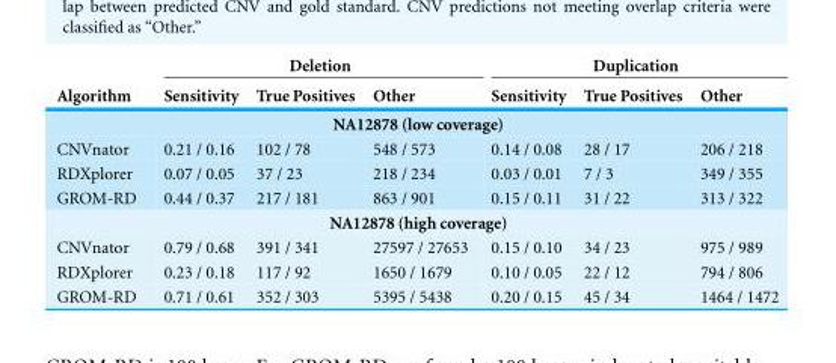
<table><thead><tr><td rowspan="2">Algorithm</td><td colspan="3">Deletion</td><td colspan="3">Duplication</td></tr><tr><td>Sensitivity</td><td>True Positives</td><td>Other</td><td>Sensitivity</td><td>True Positives</td><td>Other</td></tr></thead><tbody><tr><td colspan="7">NA12878 (low coverage)</td></tr><tr><td>CNVnator</td><td>0.21 / 0.16</td><td>102 / 78</td><td>548 / 573</td><td>0.14 / 0.08</td><td>28 / 17</td><td>206 / 218</td></tr><tr><td>RDXplorer</td><td>0.07 / 0.05</td><td>37 / 23</td><td>218 / 234</td><td>0.03 / 0.01</td><td>7 / 3</td><td>349 / 355</td></tr><tr><td>GROM-RD</td><td>0.44 / 0.37</td><td>217 / 181</td><td>863 / 901</td><td>0.15 / 0.11</td><td>31 / 22</td><td>313 / 322</td></tr><tr><td colspan="7">NA12878 (high coverage)</td></tr><tr><td>CNVnator</td><td>0.79 / 0.68</td><td>391 / 341</td><td>27597 / 27653</td><td>0.15 / 0.10</td><td>34 / 23</td><td>975 / 989</td></tr><tr><td>RDXplorer</td><td>0.23 / 0.18</td><td>117 / 92</td><td>1650 / 1679</td><td>0.10 / 0.05</td><td>22 / 12</td><td>794 / 806</td></tr><tr><td>GROM-RD</td><td>0.71 / 0.61</td><td>352 / 303</td><td>5395 / 5438</td><td>0.20 / 0.15</td><td>45 / 34</td><td>1464 / 1472</td></tr></tbody></table>